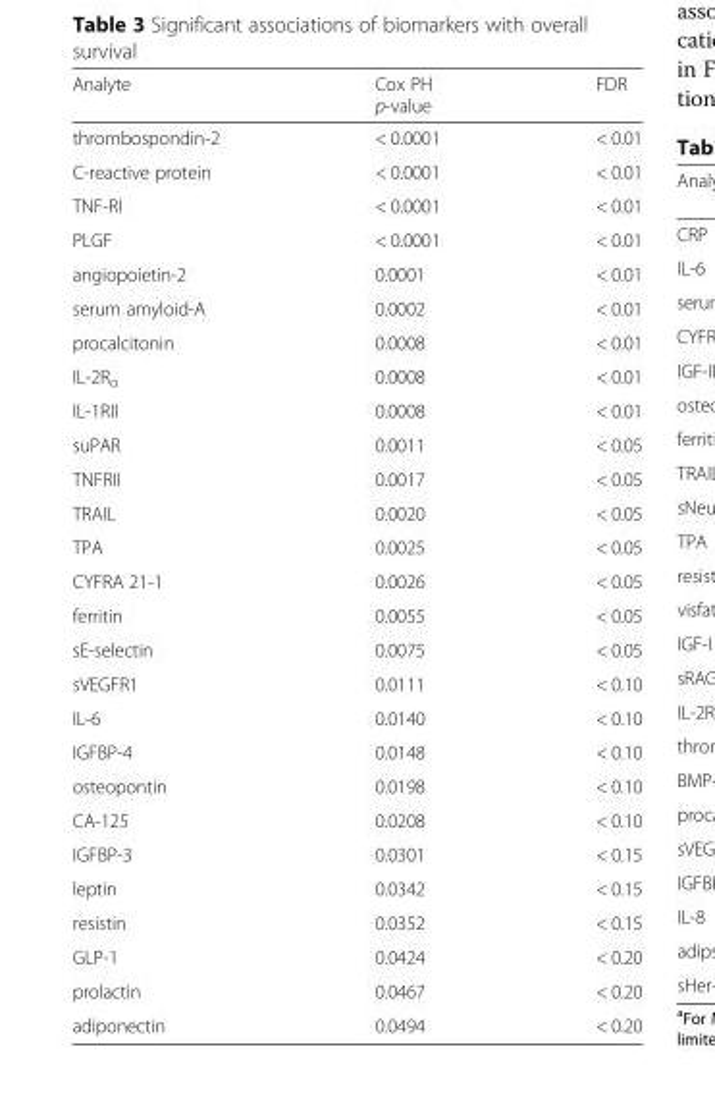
<table><thead><tr><td>Analyte</td><td>Cox PH p-value</td><td>FDR</td></tr></thead><tbody><tr><td>thrombospondin-2</td><td>&lt; 0.0001</td><td>&lt; 0.01</td></tr><tr><td>C-reactive protein</td><td>&lt; 0.0001</td><td>&lt; 0.01</td></tr><tr><td>TNF-RI</td><td>&lt; 0.0001</td><td>&lt; 0.01</td></tr><tr><td>PLGF</td><td>&lt; 0.0001</td><td>&lt; 0.01</td></tr><tr><td>angiopoietin-2</td><td>0.0001</td><td>&lt; 0.01</td></tr><tr><td>serum amyloid-A</td><td>0.0002</td><td>&lt; 0.01</td></tr><tr><td>procalcitonin</td><td>0.0008</td><td>&lt; 0.01</td></tr><tr><td>IL-2R<sub>α</sub></td><td>0.0008</td><td>&lt; 0.01</td></tr><tr><td>IL-1RII</td><td>0.0008</td><td>&lt; 0.01</td></tr><tr><td>suPAR</td><td>0.0011</td><td>&lt; 0.05</td></tr><tr><td>TNFRII</td><td>0.0017</td><td>&lt; 0.05</td></tr><tr><td>TRAIL</td><td>0.0020</td><td>&lt; 0.05</td></tr><tr><td>TPA</td><td>0.0025</td><td>&lt; 0.05</td></tr><tr><td>CYFRA 21-1</td><td>0.0026</td><td>&lt; 0.05</td></tr><tr><td>ferritin</td><td>0.0055</td><td>&lt; 0.05</td></tr><tr><td>sE-selectin</td><td>0.0075</td><td>&lt; 0.05</td></tr><tr><td>sVEGFR1</td><td>0.0111</td><td>&lt; 0.10</td></tr><tr><td>IL-6</td><td>0.0140</td><td>&lt; 0.10</td></tr><tr><td>IGFBP-4</td><td>0.0148</td><td>&lt; 0.10</td></tr><tr><td>osteopontin</td><td>0.0198</td><td>&lt; 0.10</td></tr><tr><td>CA-125</td><td>0.0208</td><td>&lt; 0.10</td></tr><tr><td>IGFBP-3</td><td>0.0301</td><td>&lt; 0.15</td></tr><tr><td>leptin</td><td>0.0342</td><td>&lt; 0.15</td></tr><tr><td>resistin</td><td>0.0352</td><td>&lt; 0.15</td></tr><tr><td>GLP-1</td><td>0.0424</td><td>&lt; 0.20</td></tr><tr><td>prolactin</td><td>0.0467</td><td>&lt; 0.20</td></tr><tr><td>adiponectin</td><td>0.0494</td><td>&lt; 0.20</td></tr></tbody></table>